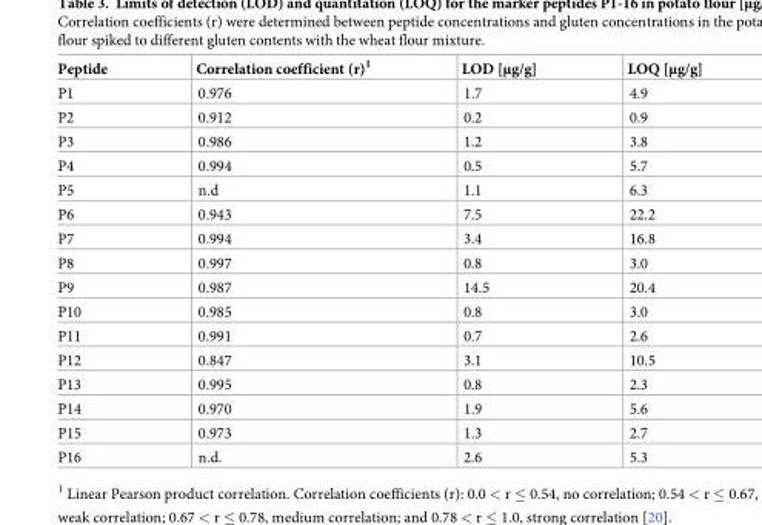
<table><thead><tr><td>Peptide</td><td>Correlation coefficient (r)<sup>1</sup></td><td>LOD [μg/g]</td><td>LOQ [μg/g]</td></tr></thead><tbody><tr><td>P1</td><td>0.976</td><td>1.7</td><td>4.9</td></tr><tr><td>P2</td><td>0.912</td><td>0.2</td><td>0.9</td></tr><tr><td>P3</td><td>0.986</td><td>1.2</td><td>3.8</td></tr><tr><td>P4</td><td>0.994</td><td>0.5</td><td>5.7</td></tr><tr><td>P5</td><td>n.d</td><td>1.1</td><td>6.3</td></tr><tr><td>P6</td><td>0.943</td><td>7.5</td><td>22.2</td></tr><tr><td>P7</td><td>0.994</td><td>3.4</td><td>16.8</td></tr><tr><td>P8</td><td>0.997</td><td>0.8</td><td>3.0</td></tr><tr><td>P9</td><td>0.987</td><td>14.5</td><td>20.4</td></tr><tr><td>P10</td><td>0.985</td><td>0.8</td><td>3.0</td></tr><tr><td>P11</td><td>0.991</td><td>0.7</td><td>2.6</td></tr><tr><td>P12</td><td>0.847</td><td>3.1</td><td>10.5</td></tr><tr><td>P13</td><td>0.995</td><td>0.8</td><td>2.3</td></tr><tr><td>P14</td><td>0.970</td><td>1.9</td><td>5.6</td></tr><tr><td>P15</td><td>0.973</td><td>1.3</td><td>2.7</td></tr><tr><td>P16</td><td>n.d.</td><td>2.6</td><td>5.3</td></tr></tbody></table>